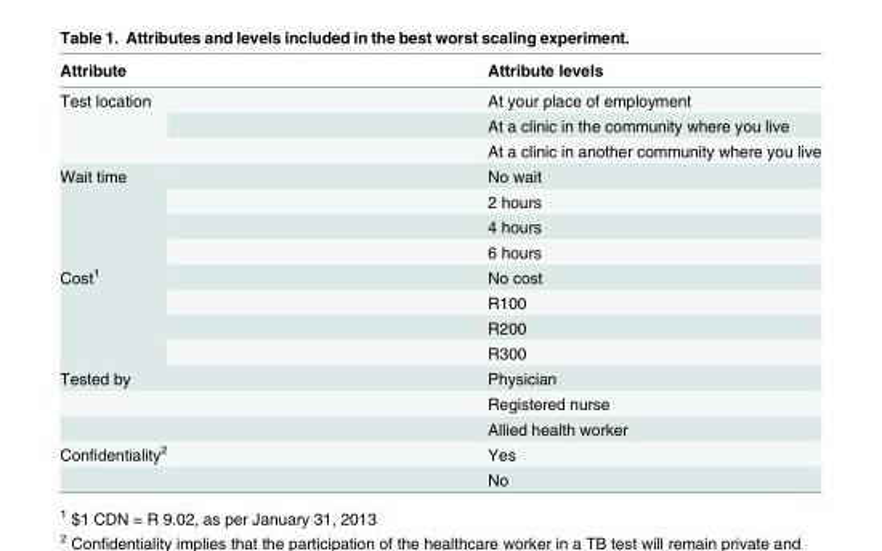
<table><thead><tr><td>Attribute</td><td>Attribute levels</td></tr></thead><tbody><tr><td rowspan="3">Test location</td><td>At your place of employment</td></tr><tr><td>At a clinic in the community where you live</td></tr><tr><td>At a clinic in another community where you live</td></tr><tr><td rowspan="4">Wait time</td><td>No wait</td></tr><tr><td>2 hours</td></tr><tr><td>4 hours</td></tr><tr><td>6 hours</td></tr><tr><td rowspan="4">Cost<sup>1</sup></td><td>No cost</td></tr><tr><td>R100</td></tr><tr><td>R200</td></tr><tr><td>R300</td></tr><tr><td rowspan="3">Tested by</td><td>Physician</td></tr><tr><td>Registered nurse</td></tr><tr><td>Allied health worker</td></tr><tr><td rowspan="2">Confidentiality<sup>2</sup></td><td>Yes</td></tr><tr><td>No</td></tr></tbody></table>